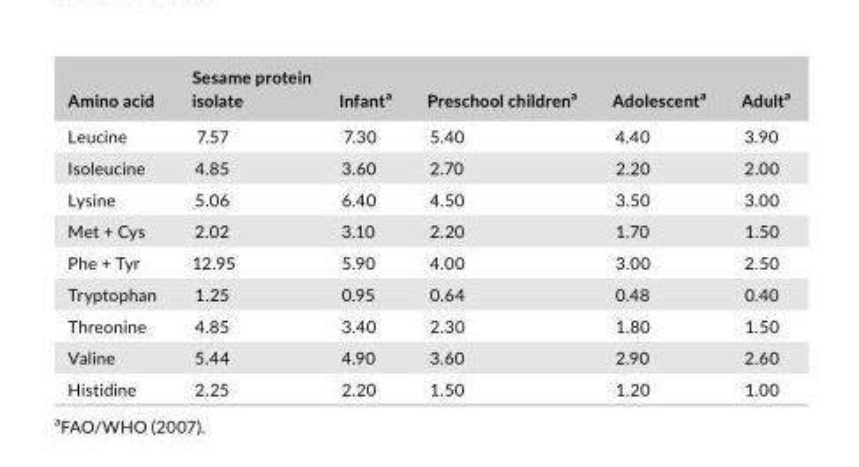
<table><thead><tr><td>Amino acid</td><td>Sesame protein isolate</td><td>Infant<sup>a</sup></td><td>Preschool children<sup>a</sup></td><td>Adolescent<sup>a</sup></td><td>Adult<sup>a</sup></td></tr></thead><tbody><tr><td>Leucine</td><td>7.57</td><td>7.30</td><td>5.40</td><td>4.40</td><td>3.90</td></tr><tr><td>Isoleucine</td><td>4.85</td><td>3.60</td><td>2.70</td><td>2.20</td><td>2.00</td></tr><tr><td>Lysine</td><td>5.06</td><td>6.40</td><td>4.50</td><td>3.50</td><td>3.00</td></tr><tr><td>Met + Cys</td><td>2.02</td><td>3.10</td><td>2.20</td><td>1.70</td><td>1.50</td></tr><tr><td>Phe + Tyr</td><td>12.95</td><td>5.90</td><td>4.00</td><td>3.00</td><td>2.50</td></tr><tr><td>Tryptophan</td><td>1.25</td><td>0.95</td><td>0.64</td><td>0.48</td><td>0.40</td></tr><tr><td>Threonine</td><td>4.85</td><td>3.40</td><td>2.30</td><td>1.80</td><td>1.50</td></tr><tr><td>Valine</td><td>5.44</td><td>4.90</td><td>3.60</td><td>2.90</td><td>2.60</td></tr><tr><td>Histidine</td><td>2.25</td><td>2.20</td><td>1.50</td><td>1.20</td><td>1.00</td></tr></tbody></table>